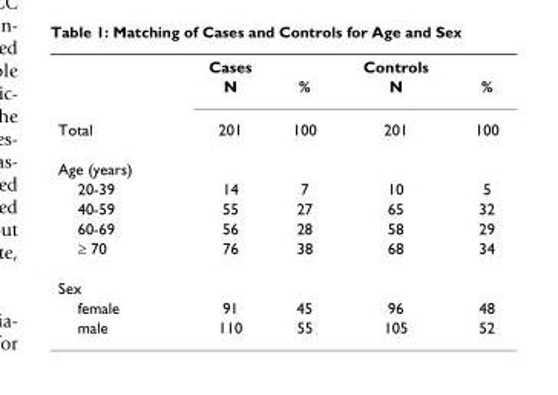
<table><thead><tr><td></td><td>Cases</td><td></td><td>Controls</td><td></td></tr></thead><tbody><tr><td></td><td>N</td><td>%</td><td>N</td><td>%</td></tr><tr><td>Total</td><td>201</td><td>100</td><td>201</td><td>100</td></tr><tr><td colspan="5">Age (years)</td></tr><tr><td>20-39</td><td>14</td><td>7</td><td>10</td><td>5</td></tr><tr><td>40-59</td><td>55</td><td>27</td><td>65</td><td>32</td></tr><tr><td>60-69</td><td>56</td><td>28</td><td>58</td><td>29</td></tr><tr><td>≥ 70</td><td>76</td><td>38</td><td>68</td><td>34</td></tr><tr><td colspan="5">Sex</td></tr><tr><td>female</td><td>91</td><td>45</td><td>96</td><td>48</td></tr><tr><td>male</td><td>110</td><td>55</td><td>105</td><td>52</td></tr></tbody></table>